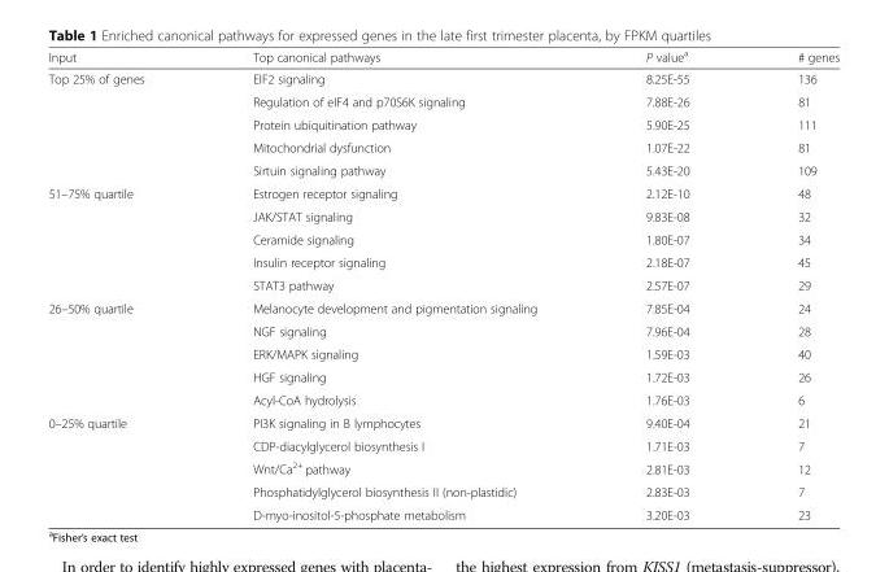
<table><thead><tr><td>Input</td><td>Top canonical pathways</td><td>P value<sup>a</sup></td><td># genes</td></tr></thead><tbody><tr><td rowspan="5">Top 25% of genes</td><td>EIF2 signaling</td><td>8.25E-55</td><td>136</td></tr><tr><td>Regulation of eIF4 and p70S6K signaling</td><td>7.88E-26</td><td>81</td></tr><tr><td>Protein ubiquitination pathway</td><td>5.90E-25</td><td>111</td></tr><tr><td>Mitochondrial dysfunction</td><td>1.07E-22</td><td>81</td></tr><tr><td>Sirtuin signaling pathway</td><td>5.43E-20</td><td>109</td></tr><tr><td rowspan="5">51–75% quartile</td><td>Estrogen receptor signaling</td><td>2.12E-10</td><td>48</td></tr><tr><td>JAK/STAT signaling</td><td>9.83E-08</td><td>32</td></tr><tr><td>Ceramide signaling</td><td>1.80E-07</td><td>34</td></tr><tr><td>Insulin receptor signaling</td><td>2.18E-07</td><td>45</td></tr><tr><td>STAT3 pathway</td><td>2.57E-07</td><td>29</td></tr><tr><td rowspan="5">26–50% quartile</td><td>Melanocyte development and pigmentation signaling</td><td>7.85E-04</td><td>24</td></tr><tr><td>NGF signaling</td><td>7.96E-04</td><td>28</td></tr><tr><td>ERK/MAPK signaling</td><td>1.59E-03</td><td>40</td></tr><tr><td>HGF signaling</td><td>1.72E-03</td><td>26</td></tr><tr><td>Acyl-CoA hydrolysis</td><td>1.76E-03</td><td>6</td></tr><tr><td rowspan="5">0–25% quartile</td><td>PI3K signaling in B lymphocytes</td><td>9.40E-04</td><td>21</td></tr><tr><td>CDP-diacylglycerol biosynthesis I</td><td>1.71E-03</td><td>7</td></tr><tr><td>Wnt/Ca<sup>2+</sup> pathway</td><td>2.81E-03</td><td>12</td></tr><tr><td>Phosphatidylglycerol biosynthesis II (non-plastidic)</td><td>2.83E-03</td><td>7</td></tr><tr><td>D-myo-inositol-5-phosphate metabolism</td><td>3.20E-03</td><td>23</td></tr></tbody></table>